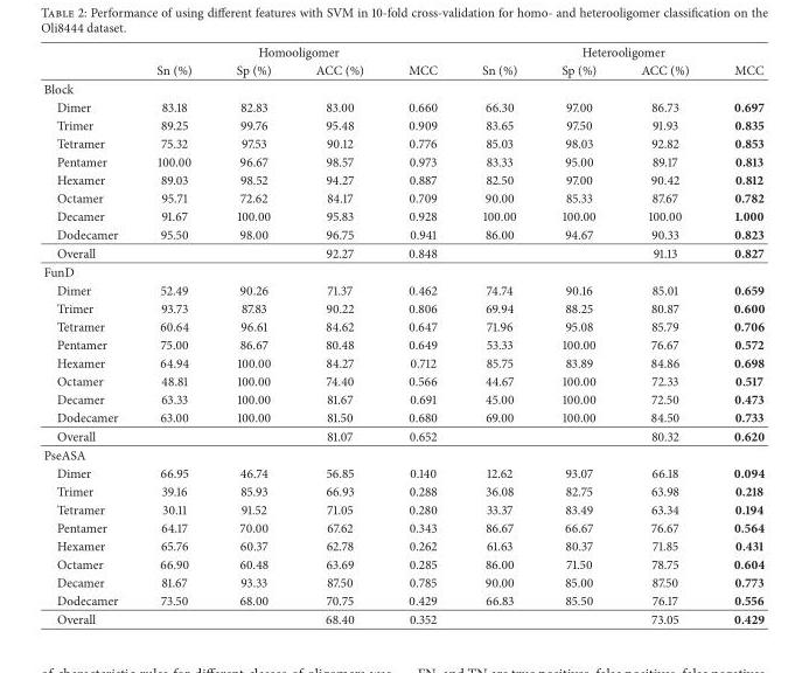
<table><thead><tr><td rowspan="2"></td><td colspan="4">Homooligomer</td><td colspan="4">Heterooligomer</td></tr><tr><td>Sn (%)</td><td>Sp (%)</td><td>ACC (%)</td><td>MCC</td><td>Sn (%)</td><td>Sp (%)</td><td>ACC (%)</td><td>MCC</td></tr></thead><tbody><tr><td colspan="9">Block</td></tr><tr><td>Dimer</td><td>83.18</td><td>82.83</td><td>83.00</td><td>0.660</td><td>66.30</td><td>97.00</td><td>86.73</td><td>0.697</td></tr><tr><td>Trimer</td><td>89.25</td><td>99.76</td><td>95.48</td><td>0.909</td><td>83.65</td><td>97.50</td><td>91.93</td><td>0.835</td></tr><tr><td>Tetramer</td><td>75.32</td><td>97.53</td><td>90.12</td><td>0.776</td><td>85.03</td><td>98.03</td><td>92.82</td><td>0.853</td></tr><tr><td>Pentamer</td><td>100.00</td><td>96.67</td><td>98.57</td><td>0.973</td><td>83.33</td><td>95.00</td><td>89.17</td><td>0.813</td></tr><tr><td>Hexamer</td><td>89.03</td><td>98.52</td><td>94.27</td><td>0.887</td><td>82.50</td><td>97.00</td><td>90.42</td><td>0.812</td></tr><tr><td>Octamer</td><td>95.71</td><td>72.62</td><td>84.17</td><td>0.709</td><td>90.00</td><td>85.33</td><td>87.67</td><td>0.782</td></tr><tr><td>Decamer</td><td>91.67</td><td>100.00</td><td>95.83</td><td>0.928</td><td>100.00</td><td>100.00</td><td>100.00</td><td>1.000</td></tr><tr><td>Dodecamer</td><td>95.50</td><td>98.00</td><td>96.75</td><td>0.941</td><td>86.00</td><td>94.67</td><td>90.33</td><td>0.823</td></tr><tr><td>Overall</td><td></td><td></td><td>92.27</td><td>0.848</td><td></td><td></td><td>91.13</td><td>0.827</td></tr><tr><td colspan="9">FunD</td></tr><tr><td>Dimer</td><td>52.49</td><td>90.26</td><td>71.37</td><td>0.462</td><td>74.74</td><td>90.16</td><td>85.01</td><td>0.659</td></tr><tr><td>Trimer</td><td>93.73</td><td>87.83</td><td>90.22</td><td>0.806</td><td>69.94</td><td>88.25</td><td>80.87</td><td>0.600</td></tr><tr><td>Tetramer</td><td>60.64</td><td>96.61</td><td>84.62</td><td>0.647</td><td>71.96</td><td>95.08</td><td>85.79</td><td>0.706</td></tr><tr><td>Pentamer</td><td>75.00</td><td>86.67</td><td>80.48</td><td>0.649</td><td>53.33</td><td>100.00</td><td>76.67</td><td>0.572</td></tr><tr><td>Hexamer</td><td>64.94</td><td>100.00</td><td>84.27</td><td>0.712</td><td>85.75</td><td>83.89</td><td>84.86</td><td>0.698</td></tr><tr><td>Octamer</td><td>48.81</td><td>100.00</td><td>74.40</td><td>0.566</td><td>44.67</td><td>100.00</td><td>72.33</td><td>0.517</td></tr><tr><td>Decamer</td><td>63.33</td><td>100.00</td><td>81.67</td><td>0.691</td><td>45.00</td><td>100.00</td><td>72.50</td><td>0.473</td></tr><tr><td>Dodecamer</td><td>63.00</td><td>100.00</td><td>81.50</td><td>0.680</td><td>69.00</td><td>100.00</td><td>84.50</td><td>0.733</td></tr><tr><td>Overall</td><td></td><td></td><td>81.07</td><td>0.652</td><td></td><td></td><td>80.32</td><td>0.620</td></tr><tr><td colspan="9">PseASA</td></tr><tr><td>Dimer</td><td>66.95</td><td>46.74</td><td>56.85</td><td>0.140</td><td>12.62</td><td>93.07</td><td>66.18</td><td>0.094</td></tr><tr><td>Trimer</td><td>39.16</td><td>85.93</td><td>66.93</td><td>0.288</td><td>36.08</td><td>82.75</td><td>63.98</td><td>0.218</td></tr><tr><td>Tetramer</td><td>30.11</td><td>91.52</td><td>71.05</td><td>0.280</td><td>33.37</td><td>83.49</td><td>63.34</td><td>0.194</td></tr><tr><td>Pentamer</td><td>64.17</td><td>70.00</td><td>67.62</td><td>0.343</td><td>86.67</td><td>66.67</td><td>76.67</td><td>0.564</td></tr><tr><td>Hexamer</td><td>65.76</td><td>60.37</td><td>62.78</td><td>0.262</td><td>61.63</td><td>80.37</td><td>71.85</td><td>0.431</td></tr><tr><td>Octamer</td><td>66.90</td><td>60.48</td><td>63.69</td><td>0.285</td><td>86.00</td><td>71.50</td><td>78.75</td><td>0.604</td></tr><tr><td>Decamer</td><td>81.67</td><td>93.33</td><td>87.50</td><td>0.785</td><td>90.00</td><td>85.00</td><td>87.50</td><td>0.773</td></tr><tr><td>Dodecamer</td><td>73.50</td><td>68.00</td><td>70.75</td><td>0.429</td><td>66.83</td><td>85.50</td><td>76.17</td><td>0.556</td></tr><tr><td>Overall</td><td></td><td></td><td>68.40</td><td>0.352</td><td></td><td></td><td>73.05</td><td>0.429</td></tr></tbody></table>